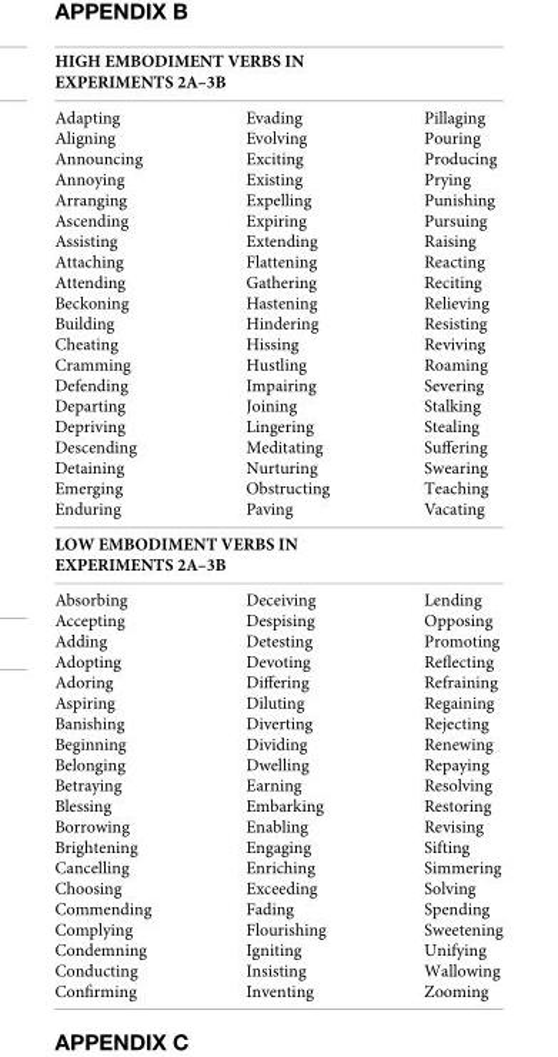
<table><tbody><tr><td colspan="3">HIGH EMBODIMENT VERBS IN EXPERIMENTS 2A–3B</td></tr><tr><td>Adapting</td><td>Evading</td><td>Pillaging</td></tr><tr><td>Aligning</td><td>Evolving</td><td>Pouring</td></tr><tr><td>Announcing</td><td>Exciting</td><td>Producing</td></tr><tr><td>Annoying</td><td>Existing</td><td>Prying</td></tr><tr><td>Arranging</td><td>Expelling</td><td>Punishing</td></tr><tr><td>Ascending</td><td>Expiring</td><td>Pursuing</td></tr><tr><td>Assisting</td><td>Extending</td><td>Raising</td></tr><tr><td>Attaching</td><td>Flattening</td><td>Reacting</td></tr><tr><td>Attending</td><td>Gathering</td><td>Reciting</td></tr><tr><td>Beckoning</td><td>Hastening</td><td>Relieving</td></tr><tr><td>Building</td><td>Hindering</td><td>Resisting</td></tr><tr><td>Cheating</td><td>Hissing</td><td>Reviving</td></tr><tr><td>Cramming</td><td>Hustling</td><td>Roaming</td></tr><tr><td>Defending</td><td>Impairing</td><td>Severing</td></tr><tr><td>Departing</td><td>Joining</td><td>Stalking</td></tr><tr><td>Depriving</td><td>Lingering</td><td>Stealing</td></tr><tr><td>Descending</td><td>Meditating</td><td>Suffering</td></tr><tr><td>Detaining</td><td>Nurturing</td><td>Swearing</td></tr><tr><td>Emerging</td><td>Obstructing</td><td>Teaching</td></tr><tr><td>Enduring</td><td>Paving</td><td>Vacating</td></tr><tr><td colspan="3">LOW EMBODIMENT VERBS IN EXPERIMENTS 2A–3B</td></tr><tr><td>Absorbing</td><td>Deceiving</td><td>Lending</td></tr><tr><td>Accepting</td><td>Despising</td><td>Opposing</td></tr><tr><td>Adding</td><td>Detesting</td><td>Promoting</td></tr><tr><td>Adopting</td><td>Devoting</td><td>Reflecting</td></tr><tr><td>Adoring</td><td>Differing</td><td>Refraining</td></tr><tr><td>Aspiring</td><td>Diluting</td><td>Regaining</td></tr><tr><td>Banishing</td><td>Diverting</td><td>Rejecting</td></tr><tr><td>Beginning</td><td>Dividing</td><td>Renewing</td></tr><tr><td>Belonging</td><td>Dwelling</td><td>Repaying</td></tr><tr><td>Betraying</td><td>Earning</td><td>Resolving</td></tr><tr><td>Blessing</td><td>Embarking</td><td>Restoring</td></tr><tr><td>Borrowing</td><td>Enabling</td><td>Revising</td></tr><tr><td>Brightening</td><td>Engaging</td><td>Sifting</td></tr><tr><td>Cancelling</td><td>Enriching</td><td>Simmering</td></tr><tr><td>Choosing</td><td>Exceeding</td><td>Solving</td></tr><tr><td>Commending</td><td>Fading</td><td>Spending</td></tr><tr><td>Complying</td><td>Flourishing</td><td>Sweetening</td></tr><tr><td>Condemning</td><td>Igniting</td><td>Unifying</td></tr><tr><td>Conducting</td><td>Insisting</td><td>Wallowing</td></tr><tr><td>Confirming</td><td>Inventing</td><td>Zooming</td></tr></tbody></table>